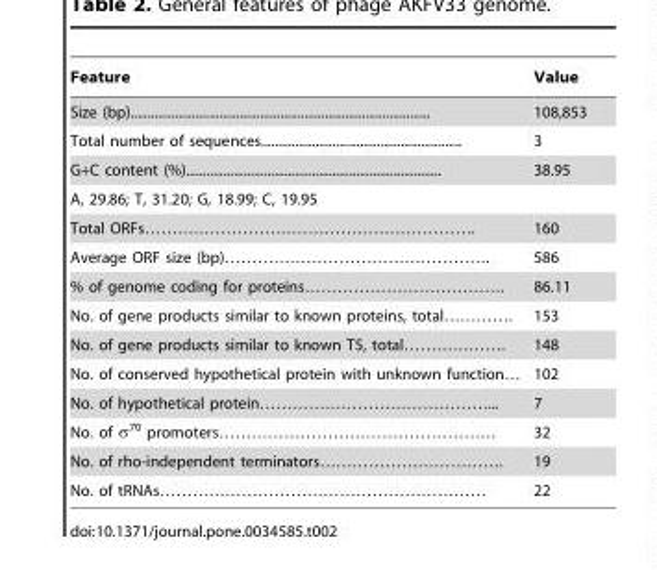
<table><thead><tr><td>Feature</td><td>Value</td></tr></thead><tbody><tr><td>Size (bp)........................................................................................</td><td>108,853</td></tr><tr><td>Total number of sequences...........................................................</td><td>3</td></tr><tr><td>G+C content (%)...........................................................................</td><td>38.95</td></tr><tr><td colspan="2">A, 29.86; T, 31.20; G, 18.99; C, 19.95</td></tr><tr><td>Total ORFs…………………………………………………….</td><td>160</td></tr><tr><td>Average ORF size (bp)………………………………………….</td><td>586</td></tr><tr><td>% of genome coding for proteins……………………………….</td><td>86.11</td></tr><tr><td>No. of gene products similar to known proteins, total………….</td><td>153</td></tr><tr><td>No. of gene products similar to known T5, total……………….</td><td>148</td></tr><tr><td>No. of conserved hypothetical protein with unknown function…</td><td>102</td></tr><tr><td>No. of hypothetical protein……………………………………...</td><td>7</td></tr><tr><td>No. of σ<sup>70</sup> promoters……………………………………………</td><td>32</td></tr><tr><td>No. of rho-independent terminators…………………………….</td><td>19</td></tr><tr><td>No. of tRNAs……………………………………………………</td><td>22</td></tr></tbody></table>